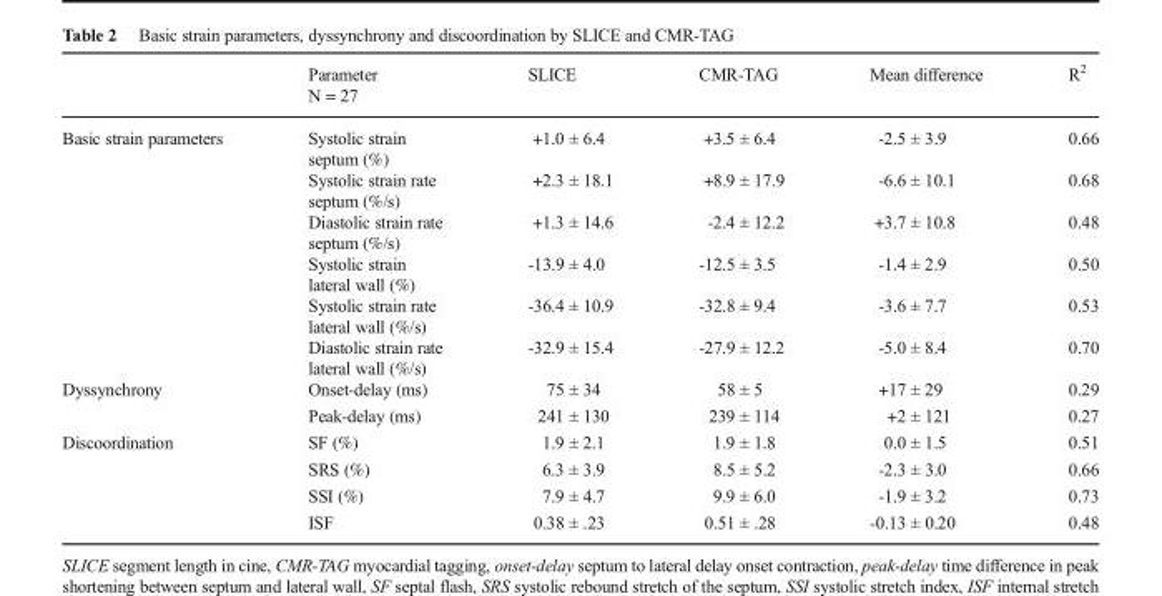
<table><thead><tr><td></td><td>Parameter N = 27</td><td>SLICE</td><td>CMR-TAG</td><td>Mean difference</td><td>R<sup>2</sup></td></tr></thead><tbody><tr><td rowspan="6">Basic strain parameters</td><td>Systolic strain septum (%)</td><td>+1.0 ± 6.4</td><td>+3.5 ± 6.4</td><td>-2.5 ± 3.9</td><td>0.66</td></tr><tr><td>Systolic strain rate septum (%/s)</td><td>+2.3 ± 18.1</td><td>+8.9 ± 17.9</td><td>-6.6 ± 10.1</td><td>0.68</td></tr><tr><td>Diastolic strain rate septum (%/s)</td><td>+1.3 ± 14.6</td><td>-2.4 ± 12.2</td><td>+3.7 ± 10.8</td><td>0.48</td></tr><tr><td>Systolic strain lateral wall (%)</td><td>-13.9 ± 4.0</td><td>-12.5 ± 3.5</td><td>-1.4 ± 2.9</td><td>0.50</td></tr><tr><td>Systolic strain rate lateral wall (%/s)</td><td>-36.4 ± 10.9</td><td>-32.8 ± 9.4</td><td>-3.6 ± 7.7</td><td>0.53</td></tr><tr><td>Diastolic strain rate lateral wall (%/s)</td><td>-32.9 ± 15.4</td><td>-27.9 ± 12.2</td><td>-5.0 ± 8.4</td><td>0.70</td></tr><tr><td rowspan="2">Dyssynchrony</td><td>Onset-delay (ms)</td><td>75 ± 34</td><td>58 ± 5</td><td>+17 ± 29</td><td>0.29</td></tr><tr><td>Peak-delay (ms)</td><td>241 ± 130</td><td>239 ± 114</td><td>+2 ± 121</td><td>0.27</td></tr><tr><td rowspan="4">Discoordination</td><td>SF (%)</td><td>1.9 ± 2.1</td><td>1.9 ± 1.8</td><td>0.0 ± 1.5</td><td>0.51</td></tr><tr><td>SRS (%)</td><td>6.3 ± 3.9</td><td>8.5 ± 5.2</td><td>-2.3 ± 3.0</td><td>0.66</td></tr><tr><td>SSI (%)</td><td>7.9 ± 4.7</td><td>9.9 ± 6.0</td><td>-1.9 ± 3.2</td><td>0.73</td></tr><tr><td>ISF</td><td>0.38 ± .23</td><td>0.51 ± .28</td><td>-0.13 ± 0.20</td><td>0.48</td></tr></tbody></table>